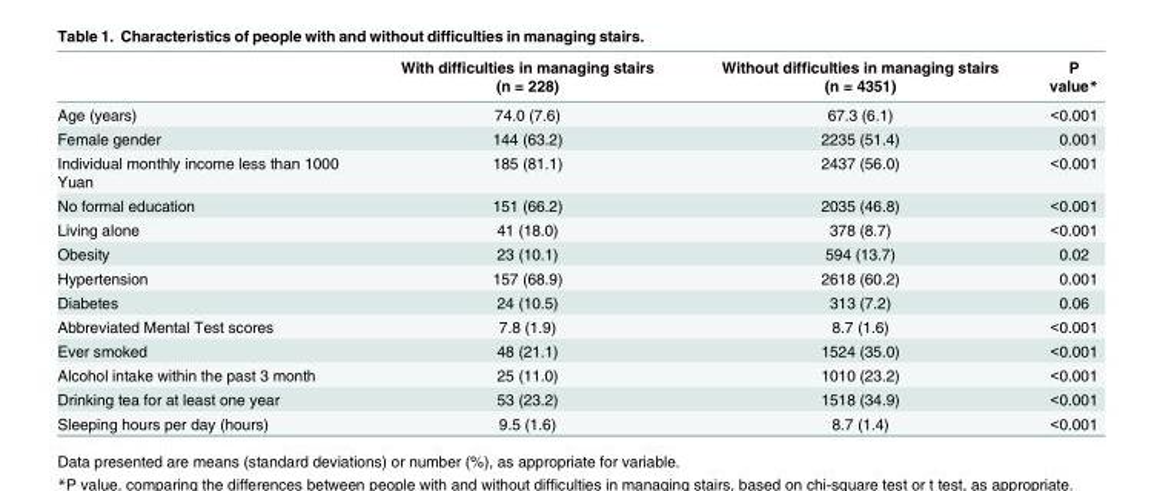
<table><thead><tr><td></td><td>With difficulties in managing stairs (n = 228)</td><td>Without difficulties in managing stairs (n = 4351)</td><td>P value*</td></tr></thead><tbody><tr><td>Age (years)</td><td>74.0 (7.6)</td><td>67.3 (6.1)</td><td>&lt;0.001</td></tr><tr><td>Female gender</td><td>144 (63.2)</td><td>2235 (51.4)</td><td>0.001</td></tr><tr><td>Individual monthly income less than 1000 Yuan</td><td>185 (81.1)</td><td>2437 (56.0)</td><td>&lt;0.001</td></tr><tr><td>No formal education</td><td>151 (66.2)</td><td>2035 (46.8)</td><td>&lt;0.001</td></tr><tr><td>Living alone</td><td>41 (18.0)</td><td>378 (8.7)</td><td>&lt;0.001</td></tr><tr><td>Obesity</td><td>23 (10.1)</td><td>594 (13.7)</td><td>0.02</td></tr><tr><td>Hypertension</td><td>157 (68.9)</td><td>2618 (60.2)</td><td>0.001</td></tr><tr><td>Diabetes</td><td>24 (10.5)</td><td>313 (7.2)</td><td>0.06</td></tr><tr><td>Abbreviated Mental Test scores</td><td>7.8 (1.9)</td><td>8.7 (1.6)</td><td>&lt;0.001</td></tr><tr><td>Ever smoked</td><td>48 (21.1)</td><td>1524 (35.0)</td><td>&lt;0.001</td></tr><tr><td>Alcohol intake within the past 3 month</td><td>25 (11.0)</td><td>1010 (23.2)</td><td>&lt;0.001</td></tr><tr><td>Drinking tea for at least one year</td><td>53 (23.2)</td><td>1518 (34.9)</td><td>&lt;0.001</td></tr><tr><td>Sleeping hours per day (hours)</td><td>9.5 (1.6)</td><td>8.7 (1.4)</td><td>&lt;0.001</td></tr></tbody></table>